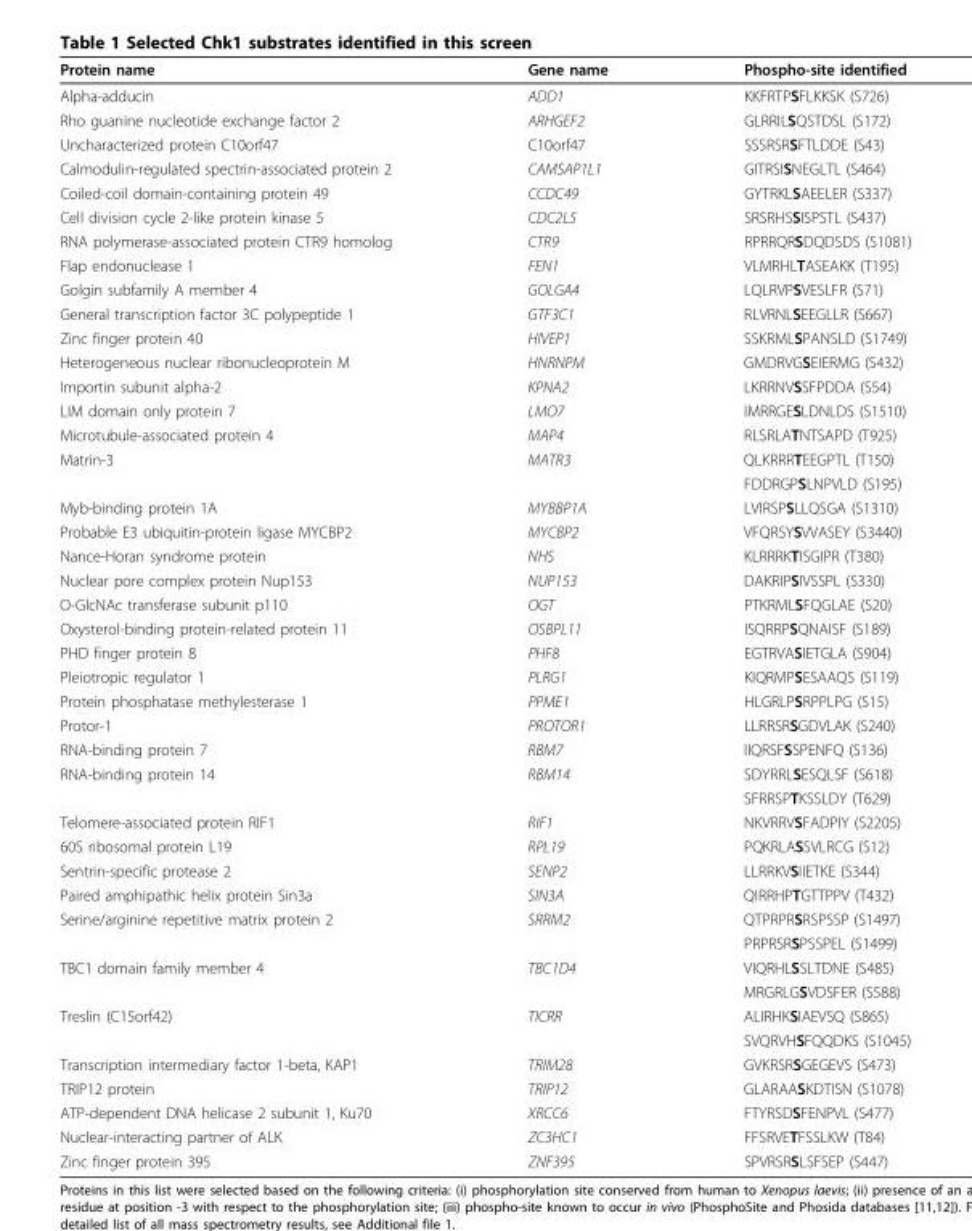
<table><thead><tr><td>Protein name</td><td>Gene name</td><td>Phospho-site identified</td></tr></thead><tbody><tr><td>Alpha-adducin</td><td>ADD1</td><td>KKFRTPSFLKKSK (S726)</td></tr><tr><td>Rho guanine nucleotide exchange factor 2</td><td>ARHGEF2</td><td>GLRRILSQSTDSL (S172)</td></tr><tr><td>Uncharacterized protein C10orf47</td><td>C10orf47</td><td>SSSRSRSFTLDDE (S43)</td></tr><tr><td>Calmodulin-regulated spectrin-associated protein 2</td><td>CAMSAP1L1</td><td>GITRSISNEGLTL (S464)</td></tr><tr><td>Coiled-coil domain-containing protein 49</td><td>CCDC49</td><td>GYTRKLSAEELER (S337)</td></tr><tr><td>Cell division cycle 2-like protein kinase 5</td><td>CDC2L5</td><td>SRSRHSSISPSTL (S437)</td></tr><tr><td>RNA polymerase-associated protein CTR9 homolog</td><td>CTR9</td><td>RPRRQRSDQDSDS (S1081)</td></tr><tr><td>Flap endonuclease 1</td><td>FEN1</td><td>VLMRHLTASEAKK (T195)</td></tr><tr><td>Golgin subfamily A member 4</td><td>GOLGA4</td><td>LQLRVPSVESLFR (S71)</td></tr><tr><td>General transcription factor 3C polypeptide 1</td><td>GTF3C1</td><td>RLVRNLSEEGLLR (S667)</td></tr><tr><td>Zinc finger protein 40</td><td>HIVEP1</td><td>SSKRMLSPANSLD (S1749)</td></tr><tr><td>Heterogeneous nuclear ribonucleoprotein M</td><td>HNRNPM</td><td>GMDRVGSEIERMG (S432)</td></tr><tr><td>Importin subunit alpha-2</td><td>KPNA2</td><td>LKRRNVSSFPDDA (S54)</td></tr><tr><td>LIM domain only protein 7</td><td>LMO7</td><td>IMRRGESLDNLDS (S1510)</td></tr><tr><td>Microtubule-associated protein 4</td><td>MAP4</td><td>RLSRLATNTSAPD (T925)</td></tr><tr><td rowspan="2">Matrin-3</td><td>MATR3</td><td>QLKRRRTEEGPTL (T150)</td></tr><tr><td></td><td>FDDRGPSLNPVLD (S195)</td></tr><tr><td>Myb-binding protein 1A</td><td>MYBBP1A</td><td>LVIRSPSLLQSGA (S1310)</td></tr><tr><td>Probable E3 ubiquitin-protein ligase MYCBP2</td><td>MYCBP2</td><td>VFQRSYSVVASEY (S3440)</td></tr><tr><td>Nance-Horan syndrome protein</td><td>NHS</td><td>KLRRRKTISGIPR (T380)</td></tr><tr><td>Nuclear pore complex protein Nup153</td><td>NUP153</td><td>DAKRIPSIVSSPL (S330)</td></tr><tr><td>O-GlcNAc transferase subunit p110</td><td>OGT</td><td>PTKRMLSFQGLAE (S20)</td></tr><tr><td>Oxysterol-binding protein-related protein 11</td><td>OSBPL11</td><td>ISQRRPSQNAISF (S189)</td></tr><tr><td>PHD finger protein 8</td><td>PHF8</td><td>EGTRVASIETGLA (S904)</td></tr><tr><td>Pleiotropic regulator 1</td><td>PLRG1</td><td>KIQRMPSESAAQS (S119)</td></tr><tr><td>Protein phosphatase methylesterase 1</td><td>PPME1</td><td>HLGRLPSRPPLPG (S15)</td></tr><tr><td>Protor-1</td><td>PROTOR1</td><td>LLRRSRSGDVLAK (S240)</td></tr><tr><td>RNA-binding protein 7</td><td>RBM7</td><td>IIQRSFSSPENFQ (S136)</td></tr><tr><td rowspan="2">RNA-binding protein 14</td><td>RBM14</td><td>SDYRRLSESQLSF (S618)</td></tr><tr><td></td><td>SFRRSPTKSSLDY (T629)</td></tr><tr><td>Telomere-associated protein RIF1</td><td>RIF1</td><td>NKVRRVSFADPIY (S2205)</td></tr><tr><td>60S ribosomal protein L19</td><td>RPL19</td><td>PQKRLASSVLRCG (S12)</td></tr><tr><td>Sentrin-specific protease 2</td><td>SENP2</td><td>LLRRKVSIIETKE (S344)</td></tr><tr><td>Paired amphipathic helix protein Sin3a</td><td>SIN3A</td><td>QIRRHPTGTTPPV (T432)</td></tr><tr><td rowspan="2">Serine/arginine repetitive matrix protein 2</td><td>SRRM2</td><td>QTPRPRSRSPSSP (S1497)</td></tr><tr><td></td><td>PRPRSRSPSSPEL (S1499)</td></tr><tr><td rowspan="2">TBC1 domain family member 4</td><td>TBC1D4</td><td>VIQRHLSSLTDNE (S485)</td></tr><tr><td></td><td>MRGRLGSVDSFER (S588)</td></tr><tr><td rowspan="2">Treslin (C15orf42)</td><td>TICRR</td><td>ALIRHKSIAEVSQ (S865)</td></tr><tr><td></td><td>SVQRVHSFQQDKS (S1045)</td></tr><tr><td>Transcription intermediary factor 1-beta, KAP1</td><td>TRIM28</td><td>GVKRSRSGEGEVS (S473)</td></tr><tr><td>TRIP12 protein</td><td>TRIP12</td><td>GLARAASKDTISN (S1078)</td></tr><tr><td>ATP-dependent DNA helicase 2 subunit 1, Ku70</td><td>XRCC6</td><td>FTYRSDSFENPVL (S477)</td></tr><tr><td>Nuclear-interacting partner of ALK</td><td>ZC3HC1</td><td>FFSRVETFSSLKW (T84)</td></tr><tr><td>Zinc finger protein 395</td><td>ZNF395</td><td>SPVRSRSLSFSEP (S447)</td></tr></tbody></table>